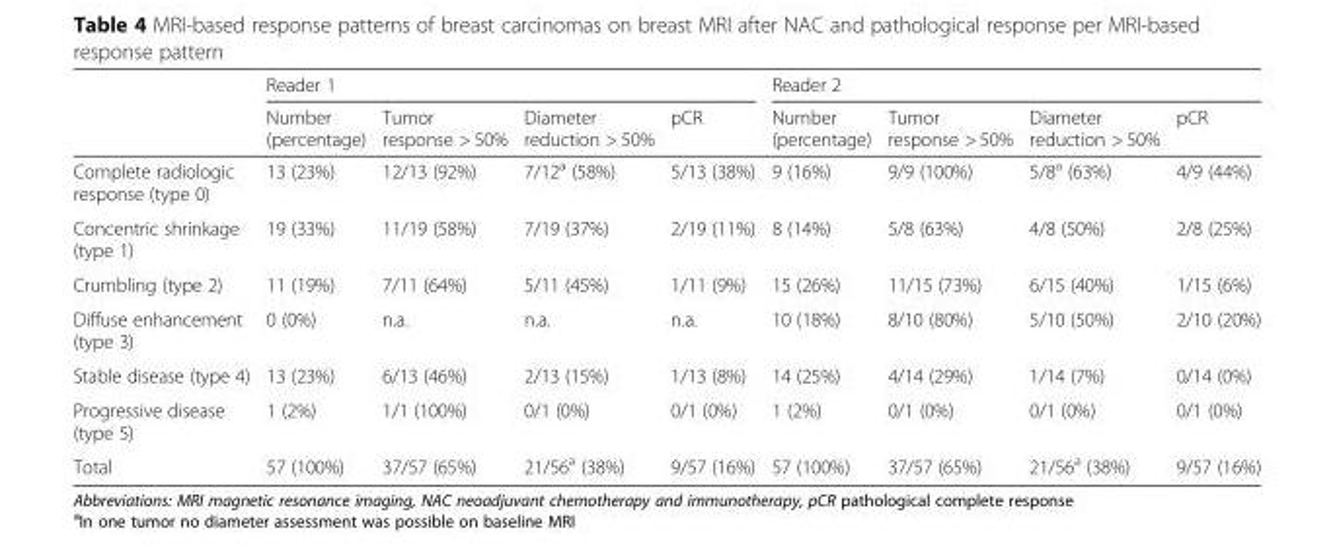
<table><thead><tr><td rowspan="2"></td><td colspan="4">Reader 1</td><td colspan="4">Reader 2</td></tr><tr><td>Number (percentage)</td><td>Tumor response &gt; 50%</td><td>Diameter reduction &gt; 50%</td><td>pCR</td><td>Number (percentage)</td><td>Tumor response &gt; 50%</td><td>Diameter reduction &gt; 50%</td><td>pCR</td></tr></thead><tbody><tr><td>Complete radiologic response (type 0)</td><td>13 (23%)</td><td>12/13 (92%)</td><td>7/12<sup>a</sup> (58%)</td><td>5/13 (38%)</td><td>9 (16%)</td><td>9/9 (100%)</td><td>5/8<sup>a</sup> (63%)</td><td>4/9 (44%)</td></tr><tr><td>Concentric shrinkage (type 1)</td><td>19 (33%)</td><td>11/19 (58%)</td><td>7/19 (37%)</td><td>2/19 (11%)</td><td>8 (14%)</td><td>5/8 (63%)</td><td>4/8 (50%)</td><td>2/8 (25%)</td></tr><tr><td>Crumbling (type 2)</td><td>11 (19%)</td><td>7/11 (64%)</td><td>5/11 (45%)</td><td>1/11 (9%)</td><td>15 (26%)</td><td>11/15 (73%)</td><td>6/15 (40%)</td><td>1/15 (6%)</td></tr><tr><td>Diffuse enhancement (type 3)</td><td>0 (0%)</td><td>n.a.</td><td>n.a.</td><td>n.a.</td><td>10 (18%)</td><td>8/10 (80%)</td><td>5/10 (50%)</td><td>2/10 (20%)</td></tr><tr><td>Stable disease (type 4)</td><td>13 (23%)</td><td>6/13 (46%)</td><td>2/13 (15%)</td><td>1/13 (8%)</td><td>14 (25%)</td><td>4/14 (29%)</td><td>1/14 (7%)</td><td>0/14 (0%)</td></tr><tr><td>Progressive disease (type 5)</td><td>1 (2%)</td><td>1/1 (100%)</td><td>0/1 (0%)</td><td>0/1 (0%)</td><td>1 (2%)</td><td>0/1 (0%)</td><td>0/1 (0%)</td><td>0/1 (0%)</td></tr><tr><td>Total</td><td>57 (100%)</td><td>37/57 (65%)</td><td>21/56<sup>a</sup> (38%)</td><td>9/57 (16%)</td><td>57 (100%)</td><td>37/57 (65%)</td><td>21/56<sup>a</sup> (38%)</td><td>9/57 (16%)</td></tr></tbody></table>